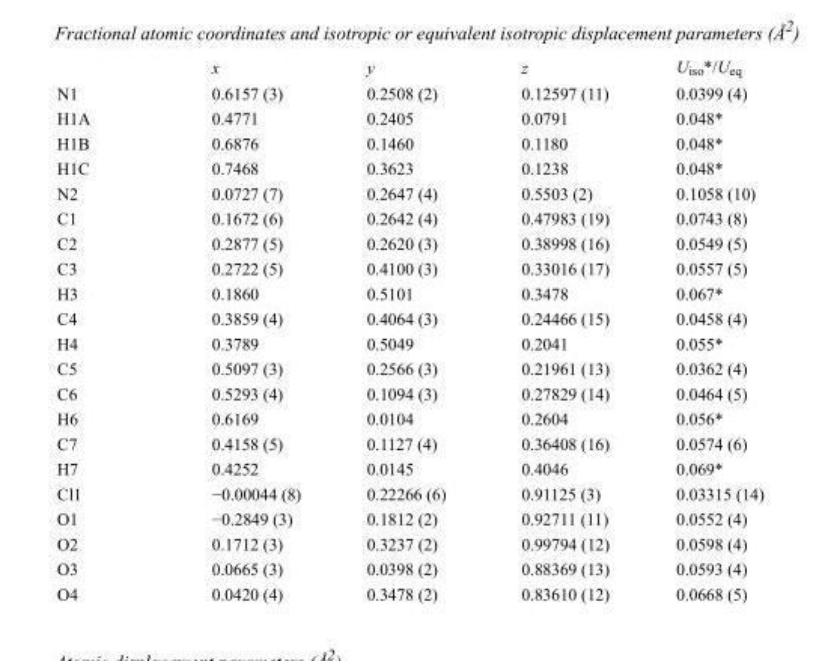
<table><thead><tr><td></td><td>x</td><td>y</td><td>z</td><td>U<sub>iso</sub>*/U<sub>eq</sub></td></tr></thead><tbody><tr><td>N1</td><td>0.6157 (3)</td><td>0.2508 (2)</td><td>0.12597 (11)</td><td>0.0399 (4)</td></tr><tr><td>H1A</td><td>0.4771</td><td>0.2405</td><td>0.0791</td><td>0.048*</td></tr><tr><td>H1B</td><td>0.6876</td><td>0.1460</td><td>0.1180</td><td>0.048*</td></tr><tr><td>H1C</td><td>0.7468</td><td>0.3623</td><td>0.1238</td><td>0.048*</td></tr><tr><td>N2</td><td>0.0727 (7)</td><td>0.2647 (4)</td><td>0.5503 (2)</td><td>0.1058 (10)</td></tr><tr><td>C1</td><td>0.1672 (6)</td><td>0.2642 (4)</td><td>0.47983 (19)</td><td>0.0743 (8)</td></tr><tr><td>C2</td><td>0.2877 (5)</td><td>0.2620 (3)</td><td>0.38998 (16)</td><td>0.0549 (5)</td></tr><tr><td>C3</td><td>0.2722 (5)</td><td>0.4100 (3)</td><td>0.33016 (17)</td><td>0.0557 (5)</td></tr><tr><td>H3</td><td>0.1860</td><td>0.5101</td><td>0.3478</td><td>0.067*</td></tr><tr><td>C4</td><td>0.3859 (4)</td><td>0.4064 (3)</td><td>0.24466 (15)</td><td>0.0458 (4)</td></tr><tr><td>H4</td><td>0.3789</td><td>0.5049</td><td>0.2041</td><td>0.055*</td></tr><tr><td>C5</td><td>0.5097 (3)</td><td>0.2566 (3)</td><td>0.21961 (13)</td><td>0.0362 (4)</td></tr><tr><td>C6</td><td>0.5293 (4)</td><td>0.1094 (3)</td><td>0.27829 (14)</td><td>0.0464 (5)</td></tr><tr><td>H6</td><td>0.6169</td><td>0.0104</td><td>0.2604</td><td>0.056*</td></tr><tr><td>C7</td><td>0.4158 (5)</td><td>0.1127 (4)</td><td>0.36408 (16)</td><td>0.0574 (6)</td></tr><tr><td>H7</td><td>0.4252</td><td>0.0145</td><td>0.4046</td><td>0.069*</td></tr><tr><td>Cl1</td><td>−0.00044 (8)</td><td>0.22266 (6)</td><td>0.91125 (3)</td><td>0.03315 (14)</td></tr><tr><td>O1</td><td>−0.2849 (3)</td><td>0.1812 (2)</td><td>0.92711 (11)</td><td>0.0552 (4)</td></tr><tr><td>O2</td><td>0.1712 (3)</td><td>0.3237 (2)</td><td>0.99794 (12)</td><td>0.0598 (4)</td></tr><tr><td>O3</td><td>0.0665 (3)</td><td>0.0398 (2)</td><td>0.88369 (13)</td><td>0.0593 (4)</td></tr><tr><td>O4</td><td>0.0420 (4)</td><td>0.3478 (2)</td><td>0.83610 (12)</td><td>0.0668 (5)</td></tr></tbody></table>